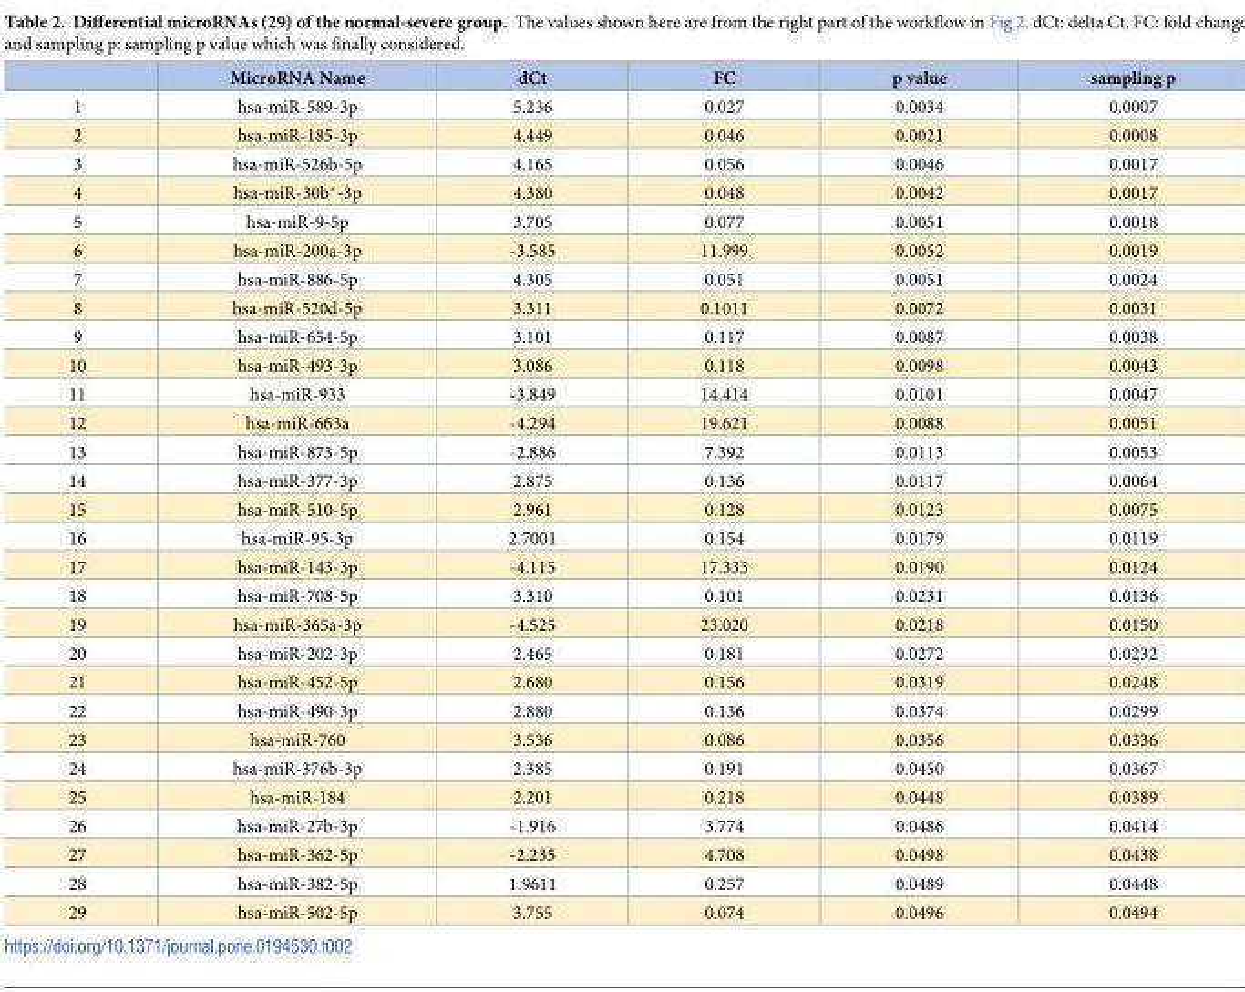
<table><thead><tr><td></td><td>MicroRNA Name</td><td>dCt</td><td>FC</td><td>p value</td><td>sampling p</td></tr></thead><tbody><tr><td>1</td><td>hsa-miR-589-3p</td><td>5.236</td><td>0.027</td><td>0.0034</td><td>0.0007</td></tr><tr><td>2</td><td>hsa-miR-185-3p</td><td>4.449</td><td>0.046</td><td>0.0021</td><td>0.0008</td></tr><tr><td>3</td><td>hsa-miR-526b-5p</td><td>4.165</td><td>0.056</td><td>0.0046</td><td>0.0017</td></tr><tr><td>4</td><td>hsa-miR-30b*-3p</td><td>4.380</td><td>0.048</td><td>0.0042</td><td>0.0017</td></tr><tr><td>5</td><td>hsa-miR-9-5p</td><td>3.705</td><td>0.077</td><td>0.0051</td><td>0.0018</td></tr><tr><td>6</td><td>hsa-miR-200a-3p</td><td>-3.585</td><td>11.999</td><td>0.0052</td><td>0.0019</td></tr><tr><td>7</td><td>hsa-miR-886-5p</td><td>4.305</td><td>0.051</td><td>0.0051</td><td>0.0024</td></tr><tr><td>8</td><td>hsa-miR-520d-5p</td><td>3.311</td><td>0.1011</td><td>0.0072</td><td>0.0031</td></tr><tr><td>9</td><td>hsa-miR-654-5p</td><td>3.101</td><td>0.117</td><td>0.0087</td><td>0.0038</td></tr><tr><td>10</td><td>hsa-miR-493-3p</td><td>3.086</td><td>0.118</td><td>0.0098</td><td>0.0043</td></tr><tr><td>11</td><td>hsa-miR-933</td><td>-3.849</td><td>14.414</td><td>0.0101</td><td>0.0047</td></tr><tr><td>12</td><td>hsa-miR-663a</td><td>-4.294</td><td>19.621</td><td>0.0088</td><td>0.0051</td></tr><tr><td>13</td><td>hsa-miR-873-5p</td><td>-2.886</td><td>7.392</td><td>0.0113</td><td>0.0053</td></tr><tr><td>14</td><td>hsa-miR-377-3p</td><td>2.875</td><td>0.136</td><td>0.0117</td><td>0.0064</td></tr><tr><td>15</td><td>hsa-miR-510-5p</td><td>2.961</td><td>0.128</td><td>0.0123</td><td>0.0075</td></tr><tr><td>16</td><td>hsa-miR-95-3p</td><td>2.7001</td><td>0.154</td><td>0.0179</td><td>0.0119</td></tr><tr><td>17</td><td>hsa-miR-143-3p</td><td>-4.115</td><td>17.333</td><td>0.0190</td><td>0.0124</td></tr><tr><td>18</td><td>hsa-miR-708-5p</td><td>3.310</td><td>0.101</td><td>0.0231</td><td>0.0136</td></tr><tr><td>19</td><td>hsa-miR-365a-3p</td><td>-4.525</td><td>23.020</td><td>0.0218</td><td>0.0150</td></tr><tr><td>20</td><td>hsa-miR-202-3p</td><td>2.465</td><td>0.181</td><td>0.0272</td><td>0.0232</td></tr><tr><td>21</td><td>hsa-miR-452-5p</td><td>2.680</td><td>0.156</td><td>0.0319</td><td>0.0248</td></tr><tr><td>22</td><td>hsa-miR-490-3p</td><td>2.880</td><td>0.136</td><td>0.0374</td><td>0.0299</td></tr><tr><td>23</td><td>hsa-miR-760</td><td>3.536</td><td>0.086</td><td>0.0356</td><td>0.0336</td></tr><tr><td>24</td><td>hsa-miR-376b-3p</td><td>2.385</td><td>0.191</td><td>0.0450</td><td>0.0367</td></tr><tr><td>25</td><td>hsa-miR-184</td><td>2.201</td><td>0.218</td><td>0.0448</td><td>0.0389</td></tr><tr><td>26</td><td>hsa-miR-27b-3p</td><td>-1.916</td><td>3.774</td><td>0.0486</td><td>0.0414</td></tr><tr><td>27</td><td>hsa-miR-362-5p</td><td>-2.235</td><td>4.708</td><td>0.0498</td><td>0.0438</td></tr><tr><td>28</td><td>hsa-miR-382-5p</td><td>1.9611</td><td>0.257</td><td>0.0489</td><td>0.0448</td></tr><tr><td>29</td><td>hsa-miR-502-5p</td><td>3.755</td><td>0.074</td><td>0.0496</td><td>0.0494</td></tr></tbody></table>